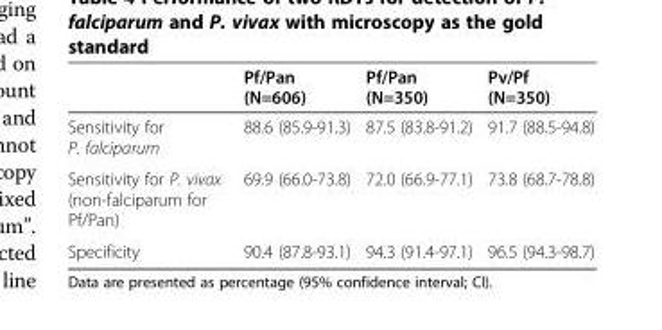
<table><thead><tr><td></td><td>Pf/Pan (N=606)</td><td>Pf/Pan (N=350)</td><td>Pv/Pf (N=350)</td></tr></thead><tbody><tr><td>Sensitivity for P. falciparum</td><td>88.6 (85.9-91.3)</td><td>87.5 (83.8-91.2)</td><td>91.7 (88.5-94.8)</td></tr><tr><td>Sensitivity for P. vivax (non-falciparum for Pf/Pan)</td><td>69.9 (66.0-73.8)</td><td>72.0 (66.9-77.1)</td><td>73.8 (68.7-78.8)</td></tr><tr><td>Specificity</td><td>90.4 (87.8-93.1)</td><td>94.3 (91.4-97.1)</td><td>96.5 (94.3-98.7)</td></tr></tbody></table>